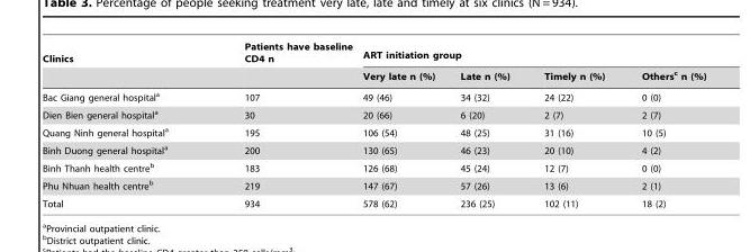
<table><thead><tr><td rowspan="2">Clinics</td><td rowspan="2">Patients have baseline CD4 n</td><td colspan="4">ART initiation group</td></tr><tr><td>Very late n (%)</td><td>Late n (%)</td><td>Timely n (%)</td><td>Others<sup>c</sup> n (%)</td></tr></thead><tbody><tr><td>Bac Giang general hospital<sup>a</sup></td><td>107</td><td>49 (46)</td><td>34 (32)</td><td>24 (22)</td><td>0 (0)</td></tr><tr><td>Dien Bien general hospital<sup>a</sup></td><td>30</td><td>20 (66)</td><td>6 (20)</td><td>2 (7)</td><td>2 (7)</td></tr><tr><td>Quang Ninh general hospital<sup>a</sup></td><td>195</td><td>106 (54)</td><td>48 (25)</td><td>31 (16)</td><td>10 (5)</td></tr><tr><td>Binh Duong general hospital<sup>a</sup></td><td>200</td><td>130 (65)</td><td>46 (23)</td><td>20 (10)</td><td>4 (2)</td></tr><tr><td>Binh Thanh health centre<sup>b</sup></td><td>183</td><td>126 (68)</td><td>45 (24)</td><td>12 (7)</td><td>0 (0)</td></tr><tr><td>Phu Nhuan health centre<sup>b</sup></td><td>219</td><td>147 (67)</td><td>57 (26)</td><td>13 (6)</td><td>2 (1)</td></tr><tr><td>Total</td><td>934</td><td>578 (62)</td><td>236 (25)</td><td>102 (11)</td><td>18 (2)</td></tr></tbody></table>